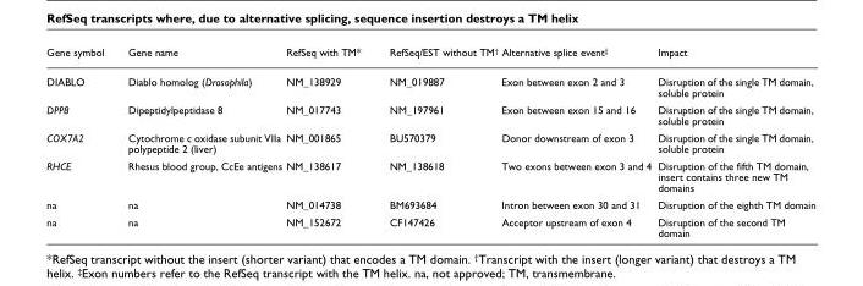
<table><thead><tr><td>Gene symbol</td><td>Gene name</td><td>RefSeq with TM*</td><td>RefSeq/EST without TM†</td><td>Alternative splice event‡</td><td>Impact</td></tr></thead><tbody><tr><td>DIABLO</td><td>Diablo homolog (Drosophila)</td><td>NM_138929</td><td>NM_019887</td><td>Exon between exon 2 and 3</td><td>Disruption of the single TM domain, soluble protein</td></tr><tr><td>DPP8</td><td>Dipeptidylpeptidase 8</td><td>NM_017743</td><td>NM_197961</td><td>Exon between exon 15 and 16</td><td>Disruption of the single TM domain, soluble protein</td></tr><tr><td>COX7A2</td><td>Cytochrome c oxidase subunit VIIa polypeptide 2 (liver)</td><td>NM_001865</td><td>BU570379</td><td>Donor downstream of exon 3</td><td>Disruption of the single TM domain, soluble protein</td></tr><tr><td>RHCE</td><td>Rhesus blood group, CcEe antigens</td><td>NM_138617</td><td>NM_138618</td><td>Two exons between exon 3 and 4</td><td>Disruption of the fifth TM domain, insert contains three new TM domains</td></tr><tr><td>na</td><td>na</td><td>NM_014738</td><td>BM693684</td><td>Intron between exon 30 and 31</td><td>Disruption of the eighth TM domain</td></tr><tr><td>na</td><td>na</td><td>NM_152672</td><td>CF147426</td><td>Acceptor upstream of exon 4</td><td>Disruption of the second TM domain</td></tr></tbody></table>